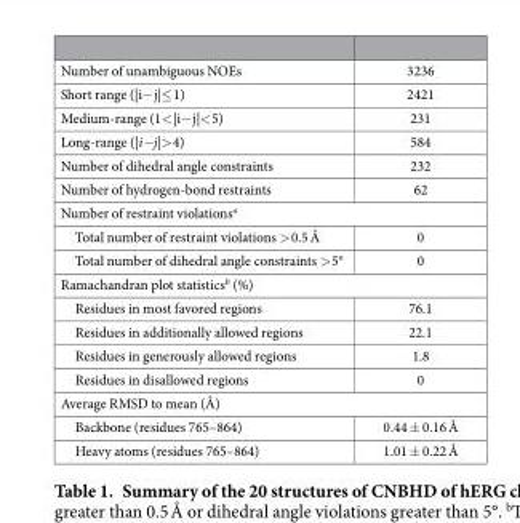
<table><tbody><tr><td>Number of unambiguous NOEs</td><td>3236</td></tr><tr><td>Short range (|i− j|≤ 1)</td><td>2421</td></tr><tr><td>Medium-range (1&lt; |i− j|&lt; 5)</td><td>231</td></tr><tr><td>Long-range (|i−j|&gt; 4)</td><td>584</td></tr><tr><td>Number of dihedral angle constraints</td><td>232</td></tr><tr><td>Number of hydrogen-bond restraints</td><td>62</td></tr><tr><td colspan="2">Number of restraint violations<sup>a</sup></td></tr><tr><td>Total number of restraint violations &gt; 0.5 Å</td><td>0</td></tr><tr><td>Total number of dihedral angle constraints &gt; 5°</td><td>0</td></tr><tr><td colspan="2">Ramachandran plot statistics<sup>b</sup> (%)</td></tr><tr><td>Residues in most favored regions</td><td>76.1</td></tr><tr><td>Residues in additionally allowed regions</td><td>22.1</td></tr><tr><td>Residues in generously allowed regions</td><td>1.8</td></tr><tr><td>Residues in disallowed regions</td><td>0</td></tr><tr><td colspan="2">Average RMSD to mean (Å)</td></tr><tr><td>Backbone (residues 765–864)</td><td>0.44 ± 0.16 Å</td></tr><tr><td>Heavy atoms (residues 765–864)</td><td>1.01 ± 0.22 Å</td></tr></tbody></table>